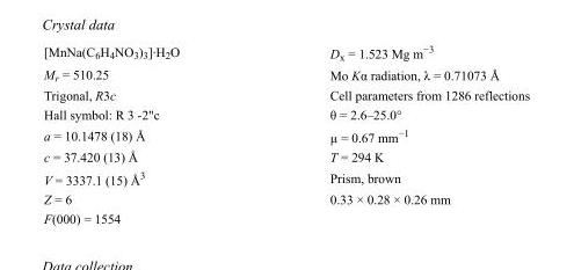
<table><tbody><tr><td>[MnNa(C<sub>6</sub>H<sub>4</sub>NO<sub>3</sub>)<sub>3</sub>]·H<sub>2</sub>O</td><td>D<sub>x</sub> = 1.523 Mg m<sup>−3</sup></td></tr><tr><td>M<sub>r</sub> = 510.25</td><td>Mo Kα radiation, λ = 0.71073 Å</td></tr><tr><td>Trigonal, R3c</td><td>Cell parameters from 1286 reflections</td></tr><tr><td>Hall symbol: R 3 -2&quot;c</td><td>θ = 2.6–25.0°</td></tr><tr><td>a = 10.1478 (18) Å</td><td>µ = 0.67 mm<sup>−1</sup></td></tr><tr><td>c = 37.420 (13) Å</td><td>T = 294 K</td></tr><tr><td>V = 3337.1 (15) Å<sup>3</sup></td><td>Prism, brown</td></tr><tr><td>Z = 6</td><td>0.33 × 0.28 × 0.26 mm</td></tr><tr><td>F(000) = 1554</td><td></td></tr></tbody></table>